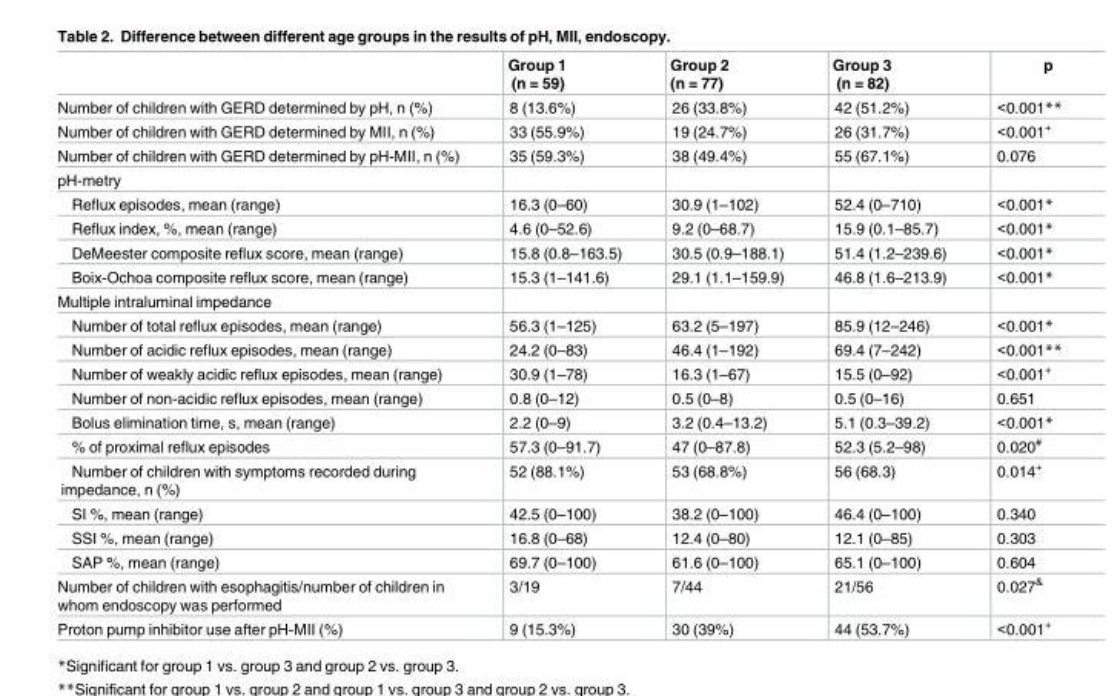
<table><thead><tr><td></td><td>Group 1 (n = 59)</td><td>Group 2 (n = 77)</td><td>Group 3 (n = 82)</td><td>p</td></tr></thead><tbody><tr><td>Number of children with GERD determined by pH, n (%)</td><td>8 (13.6%)</td><td>26 (33.8%)</td><td>42 (51.2%)</td><td>&lt;0.001**</td></tr><tr><td>Number of children with GERD determined by MII, n (%)</td><td>33 (55.9%)</td><td>19 (24.7%)</td><td>26 (31.7%)</td><td>&lt;0.001<sup>+</sup></td></tr><tr><td>Number of children with GERD determined by pH-MII, n (%)</td><td>35 (59.3%)</td><td>38 (49.4%)</td><td>55 (67.1%)</td><td>0.076</td></tr><tr><td colspan="5">pH-metry</td></tr><tr><td>Reflux episodes, mean (range)</td><td>16.3 (0–60)</td><td>30.9 (1–102)</td><td>52.4 (0–710)</td><td>&lt;0.001*</td></tr><tr><td>Reflux index, %, mean (range)</td><td>4.6 (0–52.6)</td><td>9.2 (0–68.7)</td><td>15.9 (0.1–85.7)</td><td>&lt;0.001*</td></tr><tr><td>DeMeester composite reflux score, mean (range)</td><td>15.8 (0.8–163.5)</td><td>30.5 (0.9–188.1)</td><td>51.4 (1.2–239.6)</td><td>&lt;0.001*</td></tr><tr><td>Boix-Ochoa composite reflux score, mean (range)</td><td>15.3 (1–141.6)</td><td>29.1 (1.1–159.9)</td><td>46.8 (1.6–213.9)</td><td>&lt;0.001*</td></tr><tr><td colspan="5">Multiple intraluminal impedance</td></tr><tr><td>Number of total reflux episodes, mean (range)</td><td>56.3 (1–125)</td><td>63.2 (5–197)</td><td>85.9 (12–246)</td><td>&lt;0.001*</td></tr><tr><td>Number of acidic reflux episodes, mean (range)</td><td>24.2 (0–83)</td><td>46.4 (1–192)</td><td>69.4 (7–242)</td><td>&lt;0.001**</td></tr><tr><td>Number of weakly acidic reflux episodes, mean (range)</td><td>30.9 (1–78)</td><td>16.3 (1–67)</td><td>15.5 (0–92)</td><td>&lt;0.001<sup>+</sup></td></tr><tr><td>Number of non-acidic reflux episodes, mean (range)</td><td>0.8 (0–12)</td><td>0.5 (0–8)</td><td>0.5 (0–16)</td><td>0.651</td></tr><tr><td>Bolus elimination time, s, mean (range)</td><td>2.2 (0–9)</td><td>3.2 (0.4–13.2)</td><td>5.1 (0.3–39.2)</td><td>&lt;0.001*</td></tr><tr><td>% of proximal reflux episodes</td><td>57.3 (0–91.7)</td><td>47 (0–87.8)</td><td>52.3 (5.2–98)</td><td>0.020<sup>#</sup></td></tr><tr><td>Number of children with symptoms recorded during impedance, n (%)</td><td>52 (88.1%)</td><td>53 (68.8%)</td><td>56 (68.3)</td><td>0.014<sup>+</sup></td></tr><tr><td>SI %, mean (range)</td><td>42.5 (0–100)</td><td>38.2 (0–100)</td><td>46.4 (0–100)</td><td>0.340</td></tr><tr><td>SSI %, mean (range)</td><td>16.8 (0–68)</td><td>12.4 (0–80)</td><td>12.1 (0–85)</td><td>0.303</td></tr><tr><td>SAP %, mean (range)</td><td>69.7 (0–100)</td><td>61.6 (0–100)</td><td>65.1 (0–100)</td><td>0.604</td></tr><tr><td>Number of children with esophagitis/number of children in whom endoscopy was performed</td><td>3/19</td><td>7/44</td><td>21/56</td><td>0.027<sup>&amp;</sup></td></tr><tr><td>Proton pump inhibitor use after pH-MII (%)</td><td>9 (15.3%)</td><td>30 (39%)</td><td>44 (53.7%)</td><td>&lt;0.001<sup>+</sup></td></tr></tbody></table>